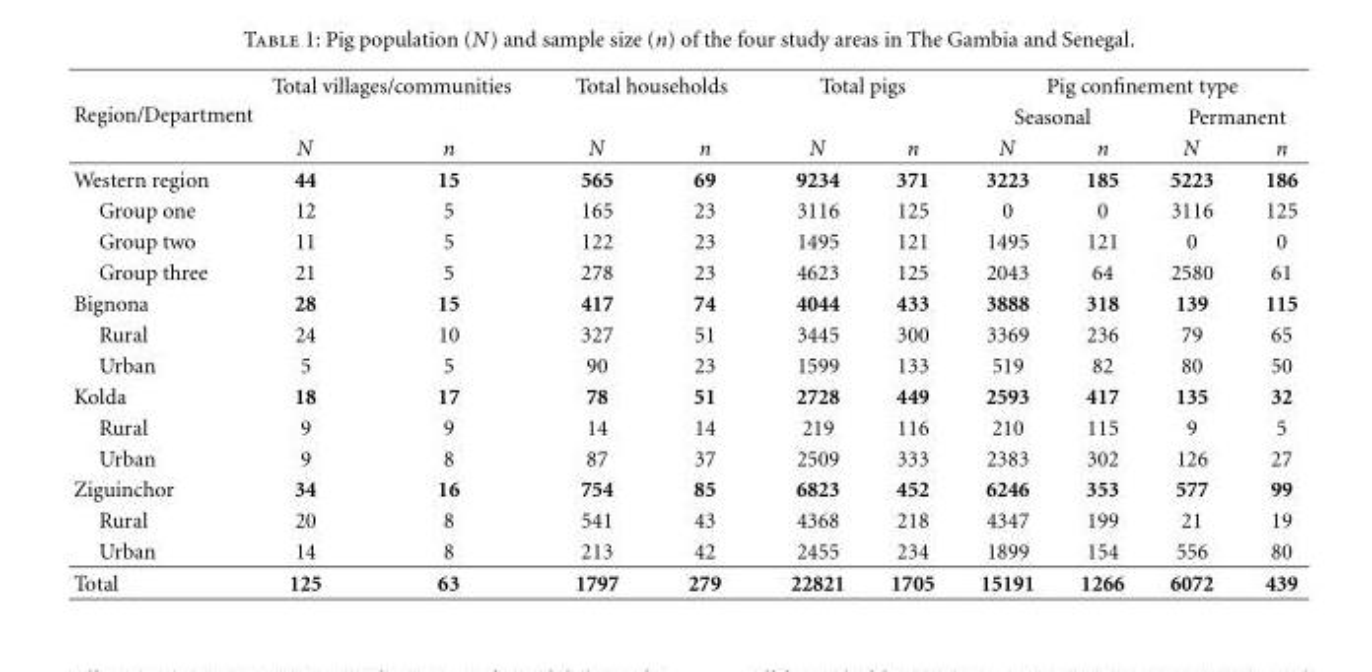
<table><thead><tr><td rowspan="3">Region/Department</td><td colspan="2">Total villages/communities</td><td colspan="2">Total households</td><td colspan="2">Total pigs</td><td colspan="4">Pig confinement type</td></tr><tr><td rowspan="2">N</td><td rowspan="2">n</td><td rowspan="2">N</td><td rowspan="2">n</td><td rowspan="2">N</td><td rowspan="2">n</td><td colspan="2">Seasonal</td><td colspan="2">Permanent</td></tr><tr><td>N</td><td>n</td><td>N</td><td>n</td></tr></thead><tbody><tr><td>Western region</td><td>44</td><td>15</td><td>565</td><td>69</td><td>9234</td><td>371</td><td>3223</td><td>185</td><td>5223</td><td>186</td></tr><tr><td>Group one</td><td>12</td><td>5</td><td>165</td><td>23</td><td>3116</td><td>125</td><td>0</td><td>0</td><td>3116</td><td>125</td></tr><tr><td>Group two</td><td>11</td><td>5</td><td>122</td><td>23</td><td>1495</td><td>121</td><td>1495</td><td>121</td><td>0</td><td>0</td></tr><tr><td>Group three</td><td>21</td><td>5</td><td>278</td><td>23</td><td>4623</td><td>125</td><td>2043</td><td>64</td><td>2580</td><td>61</td></tr><tr><td>Bignona</td><td>28</td><td>15</td><td>417</td><td>74</td><td>4044</td><td>433</td><td>3888</td><td>318</td><td>139</td><td>115</td></tr><tr><td>Rural</td><td>24</td><td>10</td><td>327</td><td>51</td><td>3445</td><td>300</td><td>3369</td><td>236</td><td>79</td><td>65</td></tr><tr><td>Urban</td><td>5</td><td>5</td><td>90</td><td>23</td><td>1599</td><td>133</td><td>519</td><td>82</td><td>80</td><td>50</td></tr><tr><td>Kolda</td><td>18</td><td>17</td><td>78</td><td>51</td><td>2728</td><td>449</td><td>2593</td><td>417</td><td>135</td><td>32</td></tr><tr><td>Rural</td><td>9</td><td>9</td><td>14</td><td>14</td><td>219</td><td>116</td><td>210</td><td>115</td><td>9</td><td>5</td></tr><tr><td>Urban</td><td>9</td><td>8</td><td>87</td><td>37</td><td>2509</td><td>333</td><td>2383</td><td>302</td><td>126</td><td>27</td></tr><tr><td>Ziguinchor</td><td>34</td><td>16</td><td>754</td><td>85</td><td>6823</td><td>452</td><td>6246</td><td>353</td><td>577</td><td>99</td></tr><tr><td>Rural</td><td>20</td><td>8</td><td>541</td><td>43</td><td>4368</td><td>218</td><td>4347</td><td>199</td><td>21</td><td>19</td></tr><tr><td>Urban</td><td>14</td><td>8</td><td>213</td><td>42</td><td>2455</td><td>234</td><td>1899</td><td>154</td><td>556</td><td>80</td></tr><tr><td>Total</td><td>125</td><td>63</td><td>1797</td><td>279</td><td>22821</td><td>1705</td><td>15191</td><td>1266</td><td>6072</td><td>439</td></tr></tbody></table>